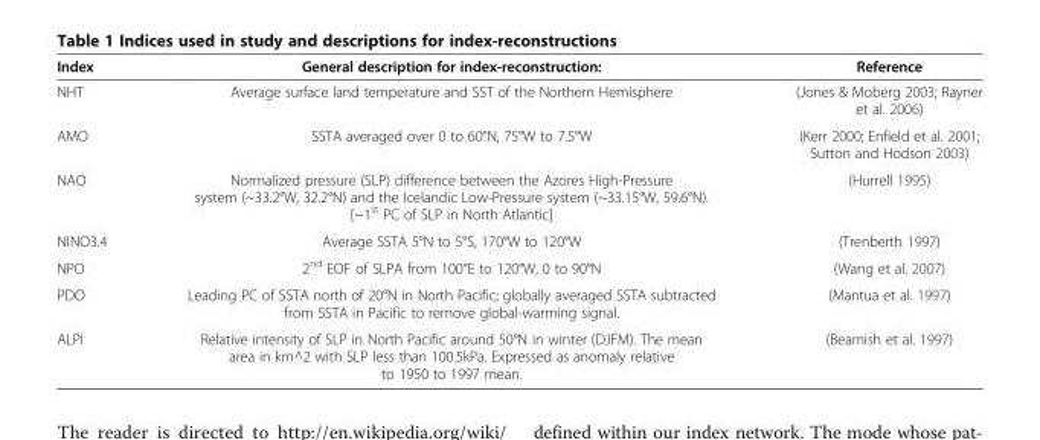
<table><thead><tr><td>Index</td><td>General description for index-reconstruction:</td><td>Reference</td></tr></thead><tbody><tr><td>NHT</td><td>Average surface land temperature and SST of the Northern Hemisphere</td><td>(Jones &amp; Moberg 2003; Rayner et al. 2006)</td></tr><tr><td>AMO</td><td>SSTA averaged over 0 to 60°N, 75°W to 7.5°W</td><td>(Kerr 2000; Enfield et al. 2001; Sutton and Hodson 2003)</td></tr><tr><td>NAO</td><td>Normalized pressure (SLP) difference between the Azores High-Pressure system (~33.2°W, 32.2°N) and the Icelandic Low-Pressure system (~33.15°W, 59.6°N). [~1<sup>st</sup> PC of SLP in North Atlantic]</td><td>(Hurrell 1995)</td></tr><tr><td>NINO3.4</td><td>Average SSTA 5°N to 5°S, 170°W to 120°W</td><td>(Trenberth 1997)</td></tr><tr><td>NPO</td><td>2<sup>nd</sup> EOF of SLPA from 100°E to 120°W, 0 to 90°N</td><td>(Wang et al. 2007)</td></tr><tr><td>PDO</td><td>Leading PC of SSTA north of 20°N in North Pacific; globally averaged SSTA subtracted from SSTA in Pacific to remove global-warming signal.</td><td>(Mantua et al. 1997)</td></tr><tr><td>ALPI</td><td>Relative intensity of SLP in North Pacific around 50°N in winter (DJFM). The mean area in km^2 with SLP less than 100.5kPa. Expressed as anomaly relative to 1950 to 1997 mean.</td><td>(Beamish et al. 1997)</td></tr></tbody></table>